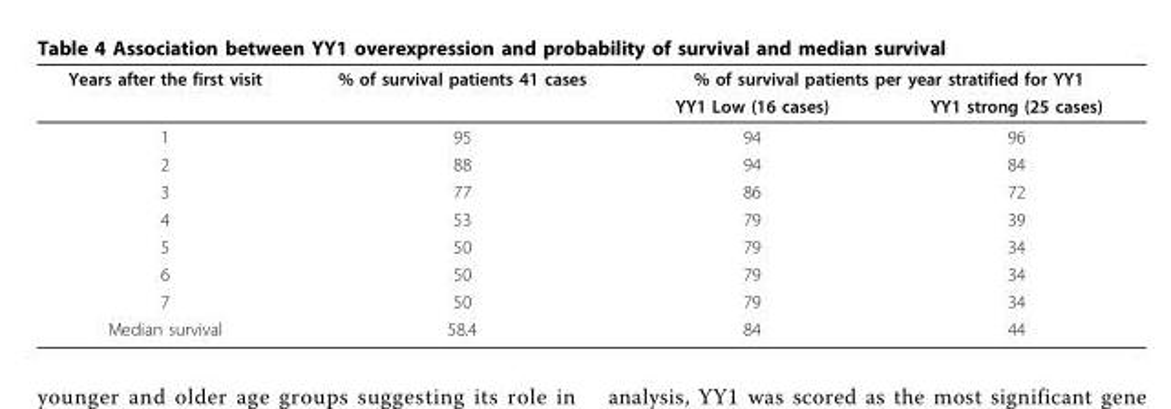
<table><thead><tr><td rowspan="2">Years after the first visit</td><td rowspan="2">% of survival patients 41 cases</td><td colspan="2">% of survival patients per year stratified for YY1</td></tr><tr><td>YY1 Low (16 cases)</td><td>YY1 strong (25 cases)</td></tr></thead><tbody><tr><td>1</td><td>95</td><td>94</td><td>96</td></tr><tr><td>2</td><td>88</td><td>94</td><td>84</td></tr><tr><td>3</td><td>77</td><td>86</td><td>72</td></tr><tr><td>4</td><td>53</td><td>79</td><td>39</td></tr><tr><td>5</td><td>50</td><td>79</td><td>34</td></tr><tr><td>6</td><td>50</td><td>79</td><td>34</td></tr><tr><td>7</td><td>50</td><td>79</td><td>34</td></tr><tr><td>Median survival</td><td>58.4</td><td>84</td><td>44</td></tr></tbody></table>